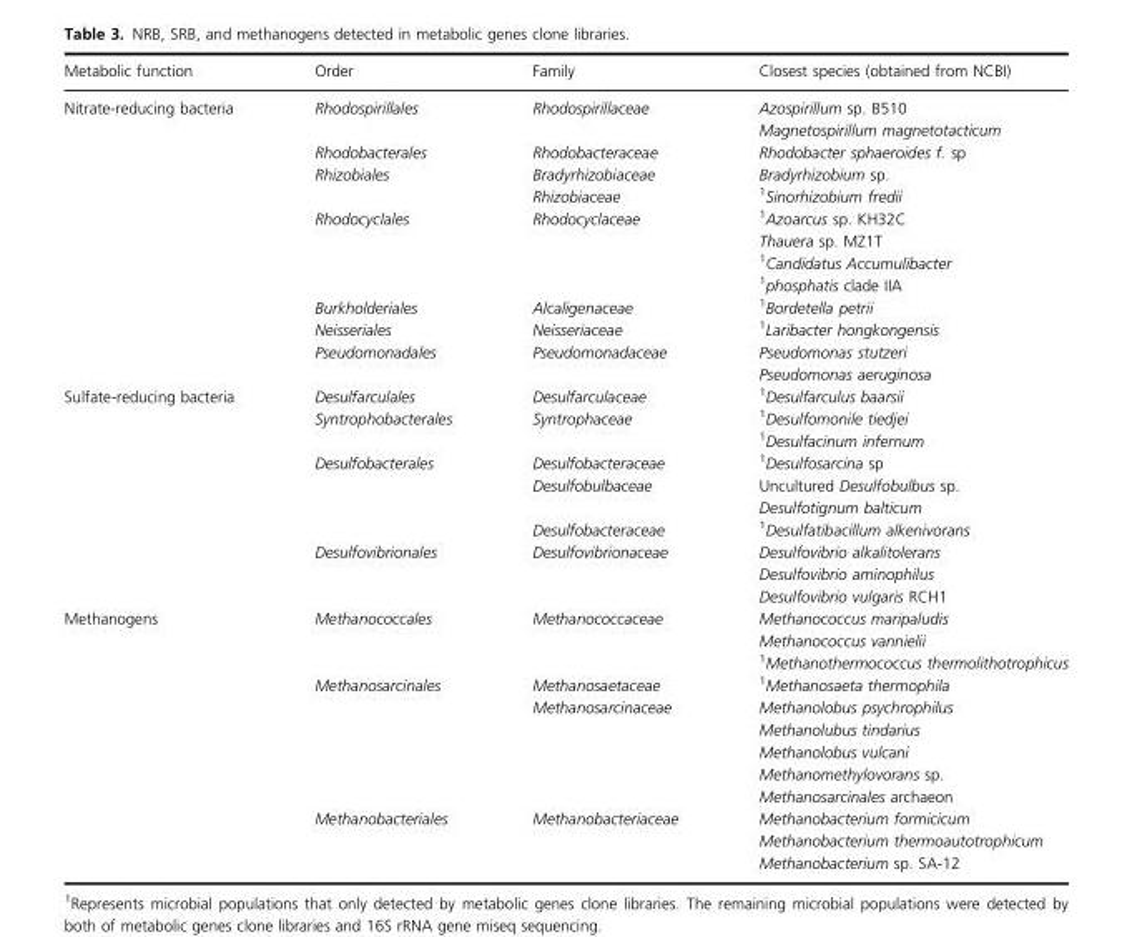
<table><thead><tr><td>Metabolic function</td><td>Order</td><td>Family</td><td>Closest species (obtained from NCBI)</td></tr></thead><tbody><tr><td rowspan="13">Nitrate-reducing bacteria</td><td rowspan="2">Rhodospirillales</td><td rowspan="2">Rhodospirillaceae</td><td>Azospirillum sp. B510</td></tr><tr><td>Magnetospirillum magnetotacticum</td></tr><tr><td>Rhodobacterales</td><td>Rhodobacteraceae</td><td>Rhodobacter sphaeroides f. sp</td></tr><tr><td rowspan="2">Rhizobiales</td><td>Bradyrhizobiaceae</td><td>Bradyrhizobium sp.</td></tr><tr><td>Rhizobiaceae</td><td>1Sinorhizobium fredii</td></tr><tr><td rowspan="4">Rhodocyclales</td><td rowspan="4">Rhodocyclaceae</td><td>1Azoarcus sp. KH32C</td></tr><tr><td>Thauera sp. MZ1T</td></tr><tr><td>1Candidatus Accumulibacter</td></tr><tr><td>1phosphatis clade IIA</td></tr><tr><td>Burkholderiales</td><td>Alcaligenaceae</td><td>1Bordetella petrii</td></tr><tr><td>Neisseriales</td><td>Neisseriaceae</td><td>1Laribacter hongkongensis</td></tr><tr><td rowspan="2">Pseudomonadales</td><td rowspan="2">Pseudomonadaceae</td><td>Pseudomonas stutzeri</td></tr><tr><td>Pseudomonas aeruginosa</td></tr><tr><td rowspan="10">Sulfate-reducing bacteria</td><td>Desulfarculales</td><td>Desulfarculaceae</td><td>1Desulfarculus baarsii</td></tr><tr><td rowspan="2">Syntrophobacterales</td><td rowspan="2">Syntrophaceae</td><td>1Desulfomonile tiedjei</td></tr><tr><td>1Desulfacinum infernum</td></tr><tr><td rowspan="4">Desulfobacterales</td><td>Desulfobacteraceae</td><td>1Desulfosarcina sp</td></tr><tr><td rowspan="2">Desulfobulbaceae</td><td>Uncultured Desulfobulbus sp.</td></tr><tr><td>Desulfotignum balticum</td></tr><tr><td>Desulfobacteraceae</td><td>1Desulfatibacillum alkenivorans</td></tr><tr><td rowspan="3">Desulfovibrionales</td><td rowspan="3">Desulfovibrionaceae</td><td>Desulfovibrio alkalitolerans</td></tr><tr><td>Desulfovibrio aminophilus</td></tr><tr><td>Desulfovibrio vulgaris RCH1</td></tr><tr><td rowspan="12">Methanogens</td><td rowspan="3">Methanococcales</td><td rowspan="3">Methanococcaceae</td><td>Methanococcus maripaludis</td></tr><tr><td>Methanococcus vannielii</td></tr><tr><td>1Methanothermococcus thermolithotrophicus</td></tr><tr><td rowspan="6">Methanosarcinales</td><td>Methanosaetaceae</td><td>1Methanosaeta thermophila</td></tr><tr><td rowspan="5">Methanosarcinaceae</td><td>Methanolobus psychrophilus</td></tr><tr><td>Methanolubus tindarius</td></tr><tr><td>Methanolobus vulcani</td></tr><tr><td>Methanomethylovorans sp.</td></tr><tr><td>Methanosarcinales archaeon</td></tr><tr><td rowspan="3">Methanobacteriales</td><td rowspan="3">Methanobacteriaceae</td><td>Methanobacterium formicicum</td></tr><tr><td>Methanobacterium thermoautotrophicum</td></tr><tr><td>Methanobacterium sp. SA-12</td></tr></tbody></table>